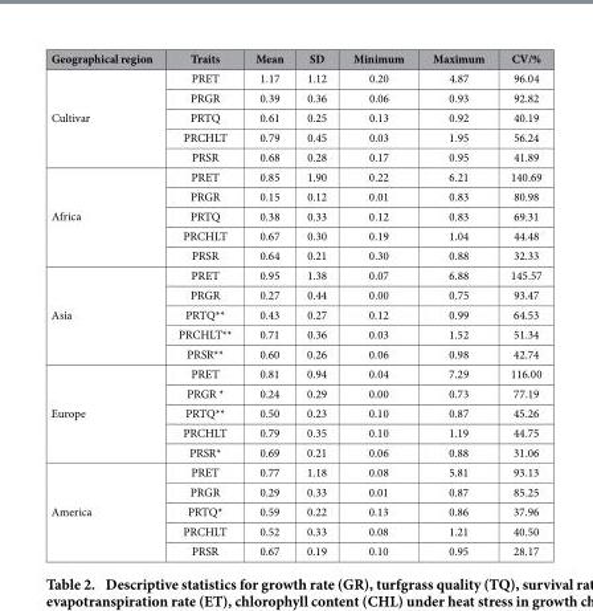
<table><thead><tr><td>Geographical region</td><td>Traits</td><td>Mean</td><td>SD</td><td>Minimum</td><td>Maximum</td><td>CV/%</td></tr></thead><tbody><tr><td rowspan="5">Cultivar</td><td>PRET</td><td>1.17</td><td>1.12</td><td>0.20</td><td>4.87</td><td>96.04</td></tr><tr><td>PRGR</td><td>0.39</td><td>0.36</td><td>0.06</td><td>0.93</td><td>92.82</td></tr><tr><td>PRTQ</td><td>0.61</td><td>0.25</td><td>0.13</td><td>0.92</td><td>40.19</td></tr><tr><td>PRCHLT</td><td>0.79</td><td>0.45</td><td>0.03</td><td>1.95</td><td>56.24</td></tr><tr><td>PRSR</td><td>0.68</td><td>0.28</td><td>0.17</td><td>0.95</td><td>41.89</td></tr><tr><td rowspan="5">Africa</td><td>PRET</td><td>0.85</td><td>1.90</td><td>0.22</td><td>6.21</td><td>140.69</td></tr><tr><td>PRGR</td><td>0.15</td><td>0.12</td><td>0.01</td><td>0.83</td><td>80.98</td></tr><tr><td>PRTQ</td><td>0.38</td><td>0.33</td><td>0.12</td><td>0.83</td><td>69.31</td></tr><tr><td>PRCHLT</td><td>0.67</td><td>0.30</td><td>0.19</td><td>1.04</td><td>44.48</td></tr><tr><td>PRSR</td><td>0.64</td><td>0.21</td><td>0.30</td><td>0.88</td><td>32.33</td></tr><tr><td rowspan="5">Asia</td><td>PRET</td><td>0.95</td><td>1.38</td><td>0.07</td><td>6.88</td><td>145.57</td></tr><tr><td>PRGR</td><td>0.27</td><td>0.44</td><td>0.00</td><td>0.75</td><td>93.47</td></tr><tr><td>PRTQ**</td><td>0.43</td><td>0.27</td><td>0.12</td><td>0.99</td><td>64.53</td></tr><tr><td>PRCHLT**</td><td>0.71</td><td>0.36</td><td>0.03</td><td>1.52</td><td>51.34</td></tr><tr><td>PRSR**</td><td>0.60</td><td>0.26</td><td>0.06</td><td>0.98</td><td>42.74</td></tr><tr><td rowspan="5">Europe</td><td>PRET</td><td>0.81</td><td>0.94</td><td>0.04</td><td>7.29</td><td>116.00</td></tr><tr><td>PRGR *</td><td>0.24</td><td>0.29</td><td>0.00</td><td>0.73</td><td>77.19</td></tr><tr><td>PRTQ**</td><td>0.50</td><td>0.23</td><td>0.10</td><td>0.87</td><td>45.26</td></tr><tr><td>PRCHLT</td><td>0.79</td><td>0.35</td><td>0.10</td><td>1.19</td><td>44.75</td></tr><tr><td>PRSR*</td><td>0.69</td><td>0.21</td><td>0.06</td><td>0.88</td><td>31.06</td></tr><tr><td rowspan="5">America</td><td>PRET</td><td>0.77</td><td>1.18</td><td>0.08</td><td>5.81</td><td>93.13</td></tr><tr><td>PRGR</td><td>0.29</td><td>0.33</td><td>0.01</td><td>0.87</td><td>85.25</td></tr><tr><td>PRTQ*</td><td>0.59</td><td>0.22</td><td>0.13</td><td>0.86</td><td>37.96</td></tr><tr><td>PRCHLT</td><td>0.52</td><td>0.33</td><td>0.08</td><td>1.21</td><td>40.50</td></tr><tr><td>PRSR</td><td>0.67</td><td>0.19</td><td>0.10</td><td>0.95</td><td>28.17</td></tr></tbody></table>